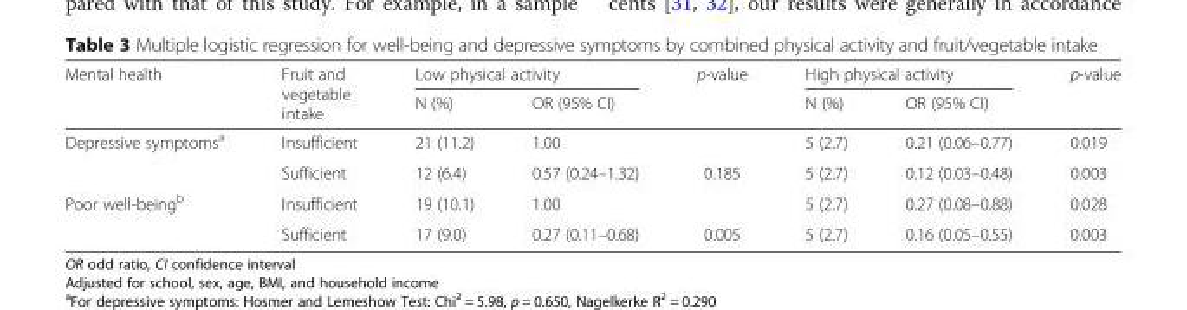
<table><thead><tr><td rowspan="2">Mental health</td><td rowspan="2">Fruit and vegetable intake</td><td colspan="2">Low physical activity</td><td rowspan="2">p-value</td><td colspan="2">High physical activity</td><td rowspan="2">p-value</td></tr><tr><td>N (%)</td><td>OR (95% CI)</td><td>N (%)</td><td>OR (95% CI)</td></tr></thead><tbody><tr><td rowspan="2">Depressive symptoms<sup>a</sup></td><td>Insufficient</td><td>21 (11.2)</td><td>1.00</td><td></td><td>5 (2.7)</td><td>0.21 (0.06–0.77)</td><td>0.019</td></tr><tr><td>Sufficient</td><td>12 (6.4)</td><td>0.57 (0.24–1.32)</td><td>0.185</td><td>5 (2.7)</td><td>0.12 (0.03–0.48)</td><td>0.003</td></tr><tr><td rowspan="2">Poor well-being<sup>b</sup></td><td>Insufficient</td><td>19 (10.1)</td><td>1.00</td><td></td><td>5 (2.7)</td><td>0.27 (0.08–0.88)</td><td>0.028</td></tr><tr><td>Sufficient</td><td>17 (9.0)</td><td>0.27 (0.11–0.68)</td><td>0.005</td><td>5 (2.7)</td><td>0.16 (0.05–0.55)</td><td>0.003</td></tr></tbody></table>